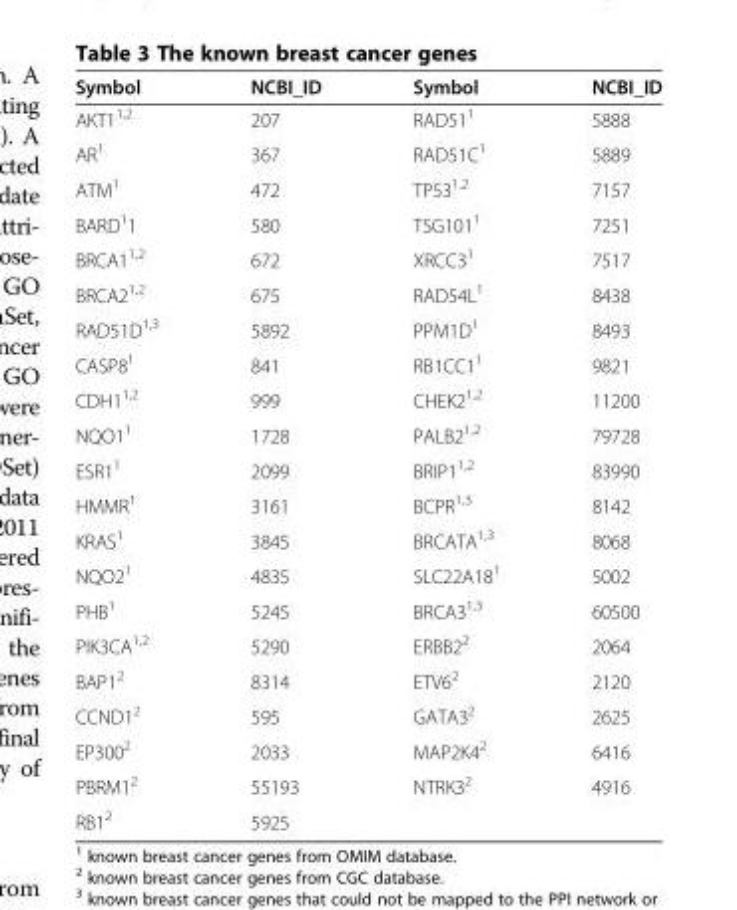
<table><thead><tr><td>Symbol</td><td>NCBI_ID</td><td>Symbol</td><td>NCBI_ID</td></tr></thead><tbody><tr><td>AKT1<sup>1,2</sup></td><td>207</td><td>RAD51<sup>1</sup></td><td>5888</td></tr><tr><td>AR<sup>1</sup></td><td>367</td><td>RAD51C<sup>1</sup></td><td>5889</td></tr><tr><td>ATM<sup>1</sup></td><td>472</td><td>TP53<sup>1,2</sup></td><td>7157</td></tr><tr><td>BARD<sup>1</sup>1</td><td>580</td><td>TSG101<sup>1</sup></td><td>7251</td></tr><tr><td>BRCA1<sup>1,2</sup></td><td>672</td><td>XRCC3<sup>1</sup></td><td>7517</td></tr><tr><td>BRCA2<sup>1,2</sup></td><td>675</td><td>RAD54L<sup>1</sup></td><td>8438</td></tr><tr><td>RAD51D<sup>1,3</sup></td><td>5892</td><td>PPM1D<sup>1</sup></td><td>8493</td></tr><tr><td>CASP8<sup>1</sup></td><td>841</td><td>RB1CC1<sup>1</sup></td><td>9821</td></tr><tr><td>CDH1<sup>1,2</sup></td><td>999</td><td>CHEK2<sup>1,2</sup></td><td>11200</td></tr><tr><td>NQO1<sup>1</sup></td><td>1728</td><td>PALB2<sup>1,2</sup></td><td>79728</td></tr><tr><td>ESR1<sup>1</sup></td><td>2099</td><td>BRIP1<sup>1,2</sup></td><td>83990</td></tr><tr><td>HMMR<sup>1</sup></td><td>3161</td><td>BCPR<sup>1,3</sup></td><td>8142</td></tr><tr><td>KRAS<sup>1</sup></td><td>3845</td><td>BRCATA<sup>1,3</sup></td><td>8068</td></tr><tr><td>NQO2<sup>1</sup></td><td>4835</td><td>SLC22A18<sup>1</sup></td><td>5002</td></tr><tr><td>PHB<sup>1</sup></td><td>5245</td><td>BRCA3<sup>1,3</sup></td><td>60500</td></tr><tr><td>PIK3CA<sup>1,2</sup></td><td>5290</td><td>ERBB2<sup>2</sup></td><td>2064</td></tr><tr><td>BAP1<sup>2</sup></td><td>8314</td><td>ETV6<sup>2</sup></td><td>2120</td></tr><tr><td>CCND1<sup>2</sup></td><td>595</td><td>GATA3<sup>2</sup></td><td>2625</td></tr><tr><td>EP300<sup>2</sup></td><td>2033</td><td>MAP2K4<sup>2</sup></td><td>6416</td></tr><tr><td>PBRM1<sup>2</sup></td><td>55193</td><td>NTRK3<sup>2</sup></td><td>4916</td></tr><tr><td>RB1<sup>2</sup></td><td>5925</td><td></td><td></td></tr></tbody></table>